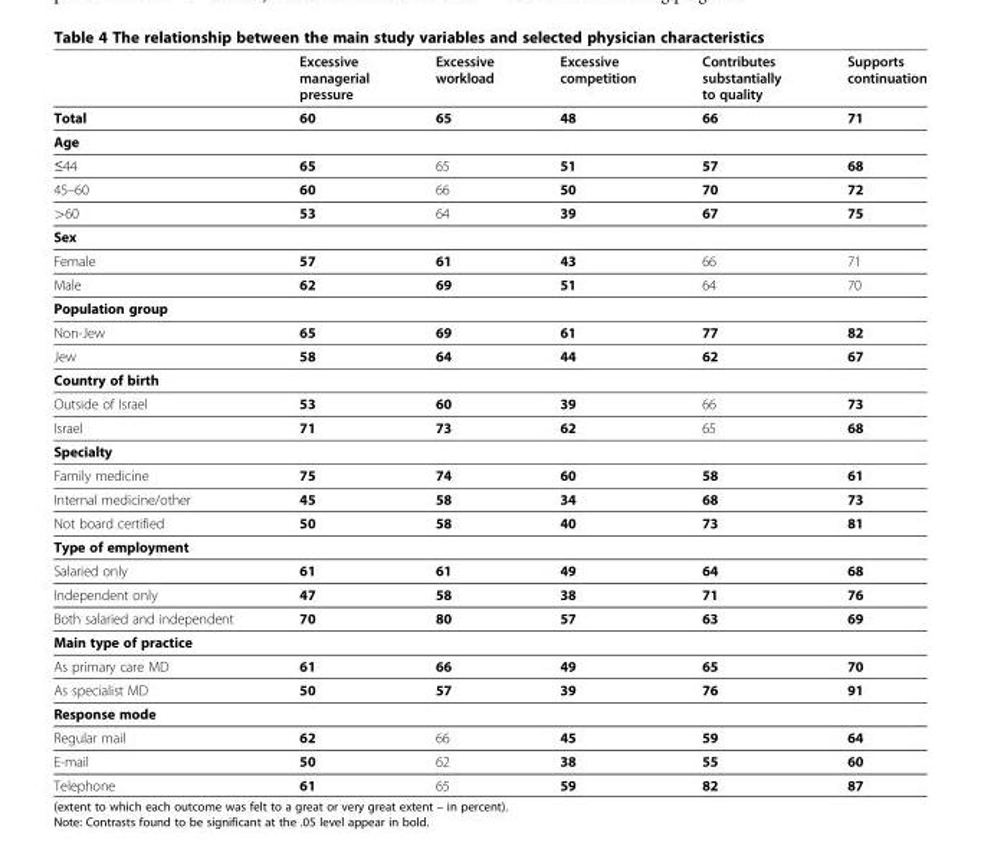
<table><thead><tr><td></td><td>Excessive managerial pressure</td><td>Excessive workload</td><td>Excessive competition</td><td>Contributes substantially to quality</td><td>Supports continuation</td></tr></thead><tbody><tr><td>Total</td><td>60</td><td>65</td><td>48</td><td>66</td><td>71</td></tr><tr><td colspan="6">Age</td></tr><tr><td>≤44</td><td>65</td><td>65</td><td>51</td><td>57</td><td>68</td></tr><tr><td>45–60</td><td>60</td><td>66</td><td>50</td><td>70</td><td>72</td></tr><tr><td>&gt;60</td><td>53</td><td>64</td><td>39</td><td>67</td><td>75</td></tr><tr><td colspan="6">Sex</td></tr><tr><td>Female</td><td>57</td><td>61</td><td>43</td><td>66</td><td>71</td></tr><tr><td>Male</td><td>62</td><td>69</td><td>51</td><td>64</td><td>70</td></tr><tr><td colspan="6">Population group</td></tr><tr><td>Non-Jew</td><td>65</td><td>69</td><td>61</td><td>77</td><td>82</td></tr><tr><td>Jew</td><td>58</td><td>64</td><td>44</td><td>62</td><td>67</td></tr><tr><td colspan="6">Country of birth</td></tr><tr><td>Outside of Israel</td><td>53</td><td>60</td><td>39</td><td>66</td><td>73</td></tr><tr><td>Israel</td><td>71</td><td>73</td><td>62</td><td>65</td><td>68</td></tr><tr><td colspan="6">Specialty</td></tr><tr><td>Family medicine</td><td>75</td><td>74</td><td>60</td><td>58</td><td>61</td></tr><tr><td>Internal medicine/other</td><td>45</td><td>58</td><td>34</td><td>68</td><td>73</td></tr><tr><td>Not board certified</td><td>50</td><td>58</td><td>40</td><td>73</td><td>81</td></tr><tr><td colspan="6">Type of employment</td></tr><tr><td>Salaried only</td><td>61</td><td>61</td><td>49</td><td>64</td><td>68</td></tr><tr><td>Independent only</td><td>47</td><td>58</td><td>38</td><td>71</td><td>76</td></tr><tr><td>Both salaried and independent</td><td>70</td><td>80</td><td>57</td><td>63</td><td>69</td></tr><tr><td colspan="6">Main type of practice</td></tr><tr><td>As primary care MD</td><td>61</td><td>66</td><td>49</td><td>65</td><td>70</td></tr><tr><td>As specialist MD</td><td>50</td><td>57</td><td>39</td><td>76</td><td>91</td></tr><tr><td colspan="6">Response mode</td></tr><tr><td>Regular mail</td><td>62</td><td>66</td><td>45</td><td>59</td><td>64</td></tr><tr><td>E-mail</td><td>50</td><td>62</td><td>38</td><td>55</td><td>60</td></tr><tr><td>Telephone</td><td>61</td><td>65</td><td>59</td><td>82</td><td>87</td></tr></tbody></table>